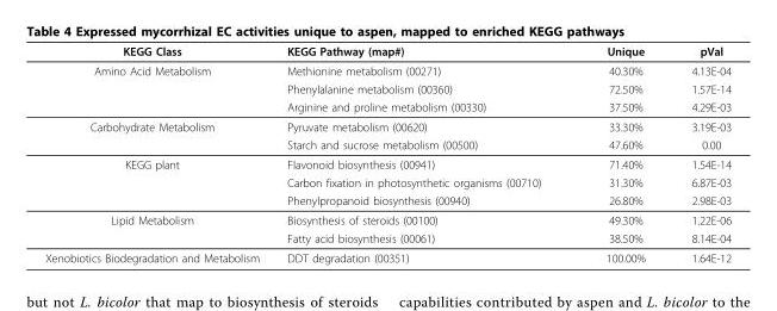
<table><thead><tr><td>KEGG Class</td><td>KEGG Pathway (map#)</td><td>Unique</td><td>pVal</td></tr></thead><tbody><tr><td rowspan="3">Amino Acid Metabolism</td><td>Methionine metabolism (00271)</td><td>40.30%</td><td>4.13E-04</td></tr><tr><td>Phenylalanine metabolism (00360)</td><td>72.50%</td><td>1.57E-14</td></tr><tr><td>Arginine and proline metabolism (00330)</td><td>37.50%</td><td>4.29E-03</td></tr><tr><td rowspan="2">Carbohydrate Metabolism</td><td>Pyruvate metabolism (00620)</td><td>33.30%</td><td>3.19E-03</td></tr><tr><td>Starch and sucrose metabolism (00500)</td><td>47.60%</td><td>0.00</td></tr><tr><td rowspan="3">KEGG plant</td><td>Flavonoid biosynthesis (00941)</td><td>71.40%</td><td>1.54E-14</td></tr><tr><td>Carbon fixation in photosynthetic organisms (00710)</td><td>31.30%</td><td>6.87E-03</td></tr><tr><td>Phenylpropanoid biosynthesis (00940)</td><td>26.80%</td><td>2.98E-03</td></tr><tr><td rowspan="2">Lipid Metabolism</td><td>Biosynthesis of steroids (00100)</td><td>49.30%</td><td>1.22E-06</td></tr><tr><td>Fatty acid biosynthesis (00061)</td><td>38.50%</td><td>8.14E-04</td></tr><tr><td>Xenobiotics Biodegradation and Metabolism</td><td>DDT degradation (00351)</td><td>100.00%</td><td>1.64E-12</td></tr></tbody></table>